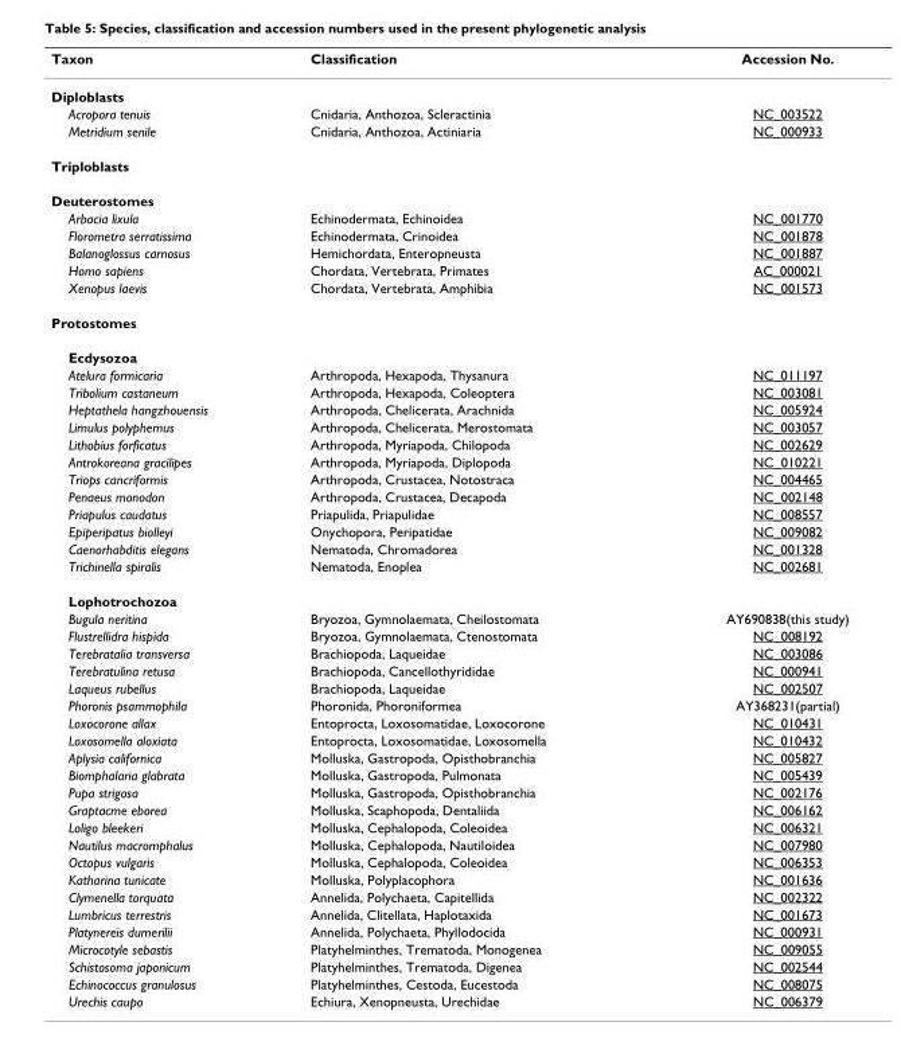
<table><thead><tr><td>Taxon</td><td>Classification</td><td>Accession No.</td></tr></thead><tbody><tr><td colspan="3">Diploblasts</td></tr><tr><td>Acropora tenuis</td><td>Cnidaria, Anthozoa, Scleractinia</td><td>NC_003522</td></tr><tr><td>Metridium senile</td><td>Cnidaria, Anthozoa, Actiniaria</td><td>NC_000933</td></tr><tr><td colspan="3">Triploblasts</td></tr><tr><td colspan="3">Deuterostomes</td></tr><tr><td>Arbacia lixula</td><td>Echinodermata, Echinoidea</td><td>NC_001770</td></tr><tr><td>Florometra serratissima</td><td>Echinodermata, Crinoidea</td><td>NC_001878</td></tr><tr><td>Balanoglossus carnosus</td><td>Hemichordata, Enteropneusta</td><td>NC_001887</td></tr><tr><td>Homo sapiens</td><td>Chordata, Vertebrata, Primates</td><td>AC_000021</td></tr><tr><td>Xenopus laevis</td><td>Chordata, Vertebrata, Amphibia</td><td>NC_001573</td></tr><tr><td colspan="3">Protostomes</td></tr><tr><td colspan="3">Ecdysozoa</td></tr><tr><td>Atelura formicaria</td><td>Arthropoda, Hexapoda, Thysanura</td><td>NC_011197</td></tr><tr><td>Tribolium castaneum</td><td>Arthropoda, Hexapoda, Coleoptera</td><td>NC_003081</td></tr><tr><td>Heptathela hangzhouensis</td><td>Arthropoda, Chelicerata, Arachnida</td><td>NC_005924</td></tr><tr><td>Limulus polyphemus</td><td>Arthropoda, Chelicerata, Merostomata</td><td>NC_003057</td></tr><tr><td>Lithobius forficatus</td><td>Arthropoda, Myriapoda, Chilopoda</td><td>NC_002629</td></tr><tr><td>Antrokoreana gracilipes</td><td>Arthropoda, Myriapoda, Diplopoda</td><td>NC_010221</td></tr><tr><td>Triops cancriformis</td><td>Arthropoda, Crustacea, Notostraca</td><td>NC_004465</td></tr><tr><td>Penaeus monodon</td><td>Arthropoda, Crustacea, Decapoda</td><td>NC_002148</td></tr><tr><td>Priapulus caudatus</td><td>Priapulida, Priapulidae</td><td>NC_008557</td></tr><tr><td>Epiperipatus biolleyi</td><td>Onychopora, Peripatidae</td><td>NC_009082</td></tr><tr><td>Caenorhabditis elegans</td><td>Nematoda, Chromadorea</td><td>NC_001328</td></tr><tr><td>Trichinella spiralis</td><td>Nematoda, Enoplea</td><td>NC_002681</td></tr><tr><td colspan="3">Lophotrochozoa</td></tr><tr><td>Bugula neritina</td><td>Bryozoa, Gymnolaemata, Cheilostomata</td><td>AY690838(this study)</td></tr><tr><td>Flustrellidra hispida</td><td>Bryozoa, Gymnolaemata, Ctenostomata</td><td>NC_008192</td></tr><tr><td>Terebratalia transversa</td><td>Brachiopoda, Laqueidae</td><td>NC_003086</td></tr><tr><td>Terebratulina retusa</td><td>Brachiopoda, Cancellothyrididae</td><td>NC_000941</td></tr><tr><td>Laqueus rubellus</td><td>Brachiopoda, Laqueidae</td><td>NC_002507</td></tr><tr><td>Phoronis psammophila</td><td>Phoronida, Phoroniformea</td><td>AY368231(partial)</td></tr><tr><td>Loxocorone allax</td><td>Entoprocta, Loxosomatidae, Loxocorone</td><td>NC_010431</td></tr><tr><td>Loxosomella aloxiata</td><td>Entoprocta, Loxosomatidae, Loxosomella</td><td>NC_010432</td></tr><tr><td>Aplysia californica</td><td>Molluska, Gastropoda, Opisthobranchia</td><td>NC_005827</td></tr><tr><td>Biomphalaria glabrata</td><td>Molluska, Gastropoda, Pulmonata</td><td>NC_005439</td></tr><tr><td>Pupa strigosa</td><td>Molluska, Gastropoda, Opisthobranchia</td><td>NC_002176</td></tr><tr><td>Graptacme eborea</td><td>Molluska, Scaphopoda, Dentaliida</td><td>NC_006162</td></tr><tr><td>Loligo bleekeri</td><td>Molluska, Cephalopoda, Coleoidea</td><td>NC_006321</td></tr><tr><td>Nautilus macromphalus</td><td>Molluska, Cephalopoda, Nautiloidea</td><td>NC_007980</td></tr><tr><td>Octopus vulgaris</td><td>Molluska, Cephalopoda, Coleoidea</td><td>NC_006353</td></tr><tr><td>Katharina tunicate</td><td>Molluska, Polyplacophora</td><td>NC_001636</td></tr><tr><td>Clymenella torquata</td><td>Annelida, Polychaeta, Capitellida</td><td>NC_002322</td></tr><tr><td>Lumbricus terrestris</td><td>Annelida, Clitellata, Haplotaxida</td><td>NC_001673</td></tr><tr><td>Platynereis dumerilii</td><td>Annelida, Polychaeta, Phyllodocida</td><td>NC_000931</td></tr><tr><td>Microcotyle sebastis</td><td>Platyhelminthes, Trematoda, Monogenea</td><td>NC_009055</td></tr><tr><td>Schistosoma japonicum</td><td>Platyhelminthes, Trematoda, Digenea</td><td>NC_002544</td></tr><tr><td>Echinococcus granulosus</td><td>Platyhelminthes, Cestoda, Eucestoda</td><td>NC_008075</td></tr><tr><td>Urechis caupo</td><td>Echiura, Xenopneusta, Urechidae</td><td>NC_006379</td></tr></tbody></table>